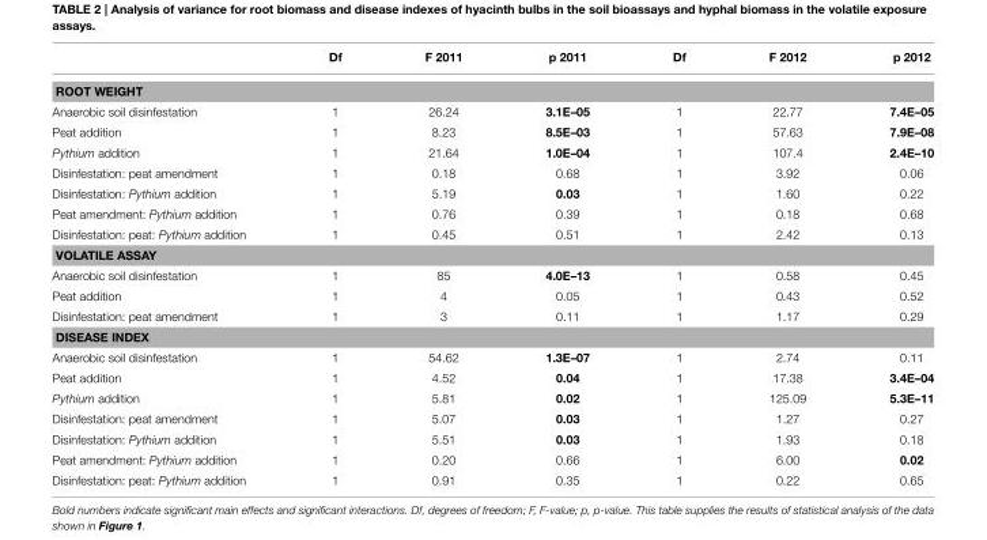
<table><thead><tr><td></td><td>Df</td><td>F 2011</td><td>p 2011</td><td>Df</td><td>F 2012</td><td>p 2012</td></tr></thead><tbody><tr><td colspan="7">ROOT WEIGHT</td></tr><tr><td>Anaerobic soil disinfestation</td><td>1</td><td>26.24</td><td>3.1E–05</td><td>1</td><td>22.77</td><td>7.4E–05</td></tr><tr><td>Peat addition</td><td>1</td><td>8.23</td><td>8.5E–03</td><td>1</td><td>57.63</td><td>7.9E–08</td></tr><tr><td>Pythium addition</td><td>1</td><td>21.64</td><td>1.0E–04</td><td>1</td><td>107.4</td><td>2.4E–10</td></tr><tr><td>Disinfestation: peat amendment</td><td>1</td><td>0.18</td><td>0.68</td><td>1</td><td>3.92</td><td>0.06</td></tr><tr><td>Disinfestation: Pythium addition</td><td>1</td><td>5.19</td><td>0.03</td><td>1</td><td>1.60</td><td>0.22</td></tr><tr><td>Peat amendment: Pythium addition</td><td>1</td><td>0.76</td><td>0.39</td><td>1</td><td>0.18</td><td>0.68</td></tr><tr><td>Disinfestation: peat: Pythium addition</td><td>1</td><td>0.45</td><td>0.51</td><td>1</td><td>2.42</td><td>0.13</td></tr><tr><td colspan="7">VOLATILE ASSAY</td></tr><tr><td>Anaerobic soil disinfestation</td><td>1</td><td>85</td><td>4.0E–13</td><td>1</td><td>0.58</td><td>0.45</td></tr><tr><td>Peat addition</td><td>1</td><td>4</td><td>0.05</td><td>1</td><td>0.43</td><td>0.52</td></tr><tr><td>Disinfestation: peat amendment</td><td>1</td><td>3</td><td>0.11</td><td>1</td><td>1.17</td><td>0.29</td></tr><tr><td colspan="7">DISEASE INDEX</td></tr><tr><td>Anaerobic soil disinfestation</td><td>1</td><td>54.62</td><td>1.3E–07</td><td>1</td><td>2.74</td><td>0.11</td></tr><tr><td>Peat addition</td><td>1</td><td>4.52</td><td>0.04</td><td>1</td><td>17.38</td><td>3.4E–04</td></tr><tr><td>Pythium addition</td><td>1</td><td>5.81</td><td>0.02</td><td>1</td><td>125.09</td><td>5.3E–11</td></tr><tr><td>Disinfestation: peat amendment</td><td>1</td><td>5.07</td><td>0.03</td><td>1</td><td>1.27</td><td>0.27</td></tr><tr><td>Disinfestation: Pythium addition</td><td>1</td><td>5.51</td><td>0.03</td><td>1</td><td>1.93</td><td>0.18</td></tr><tr><td>Peat amendment: Pythium addition</td><td>1</td><td>0.20</td><td>0.66</td><td>1</td><td>6.00</td><td>0.02</td></tr><tr><td>Disinfestation: peat: Pythium addition</td><td>1</td><td>0.91</td><td>0.35</td><td>1</td><td>0.22</td><td>0.65</td></tr></tbody></table>